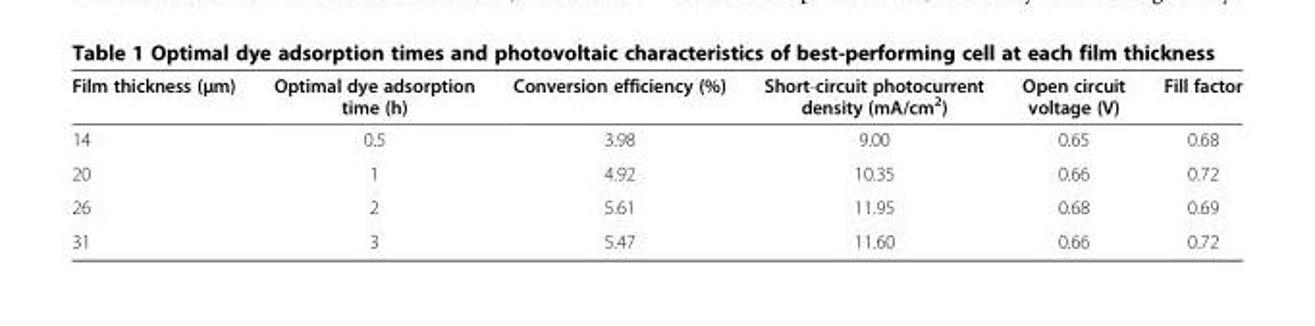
<table><thead><tr><td>Film thickness (μm)</td><td>Optimal dye adsorption time (h)</td><td>Conversion efficiency (%)</td><td>Short-circuit photocurrent density (mA/cm<sup>2</sup>)</td><td>Open circuit voltage (V)</td><td>Fill factor</td></tr></thead><tbody><tr><td>14</td><td>0.5</td><td>3.98</td><td>9.00</td><td>0.65</td><td>0.68</td></tr><tr><td>20</td><td>1</td><td>4.92</td><td>10.35</td><td>0.66</td><td>0.72</td></tr><tr><td>26</td><td>2</td><td>5.61</td><td>11.95</td><td>0.68</td><td>0.69</td></tr><tr><td>31</td><td>3</td><td>5.47</td><td>11.60</td><td>0.66</td><td>0.72</td></tr></tbody></table>